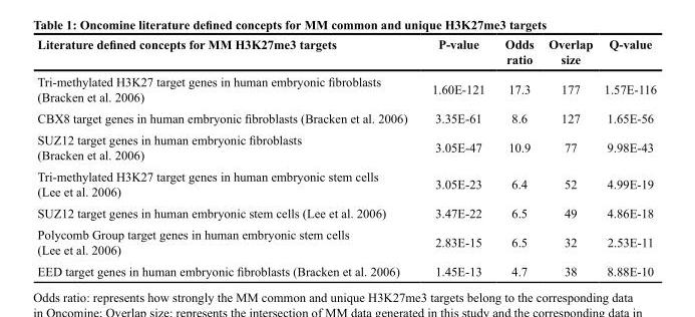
<table><thead><tr><td>Literature defined concepts for MM H3K27me3 targets</td><td>P-value</td><td>Odds ratio</td><td>Overlap size</td><td>Q-value</td></tr></thead><tbody><tr><td>Tri-methylated H3K27 target genes in human embryonic fibroblasts (Bracken et al. 2006)</td><td>1.60E-121</td><td>17.3</td><td>177</td><td>1.57E-116</td></tr><tr><td>CBX8 target genes in human embryonic fibroblasts (Bracken et al. 2006)</td><td>3.35E-61</td><td>8.6</td><td>127</td><td>1.65E-56</td></tr><tr><td>SUZ12 target genes in human embryonic fibroblasts (Bracken et al. 2006)</td><td>3.05E-47</td><td>10.9</td><td>77</td><td>9.98E-43</td></tr><tr><td>Tri-methylated H3K27 target genes in human embryonic stem cells (Lee et al. 2006)</td><td>3.05E-23</td><td>6.4</td><td>52</td><td>4.99E-19</td></tr><tr><td>SUZ12 target genes in human embryonic stem cells (Lee et al. 2006)</td><td>3.47E-22</td><td>6.5</td><td>49</td><td>4.86E-18</td></tr><tr><td>Polycomb Group target genes in human embryonic stem cells (Lee et al. 2006)</td><td>2.83E-15</td><td>6.5</td><td>32</td><td>2.53E-11</td></tr><tr><td>EED target genes in human embryonic fibroblasts (Bracken et al. 2006)</td><td>1.45E-13</td><td>4.7</td><td>38</td><td>8.88E-10</td></tr></tbody></table>